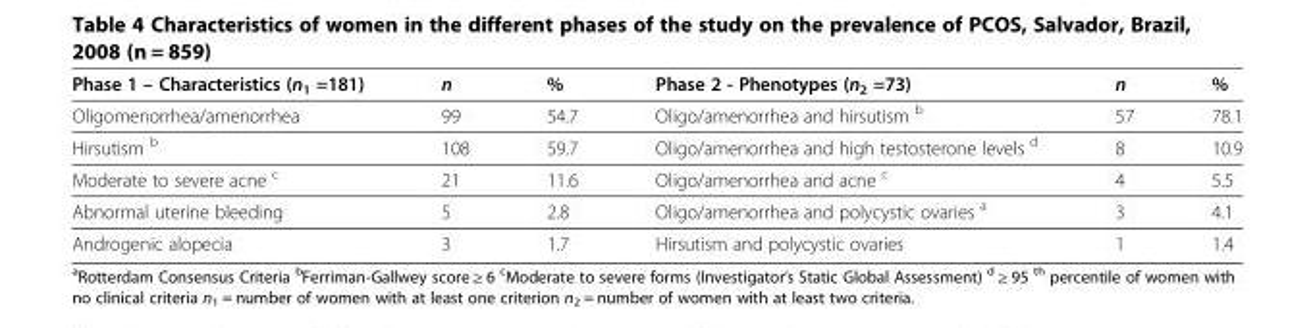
<table><thead><tr><td>Phase 1 – Characteristics (n<sub>1</sub> =181)</td><td>n</td><td>%</td><td>Phase 2 - Phenotypes (n<sub>2</sub> =73)</td><td>n</td><td>%</td></tr></thead><tbody><tr><td>Oligomenorrhea/amenorrhea</td><td>99</td><td>54.7</td><td>Oligo/amenorrhea and hirsutism <sup>b</sup></td><td>57</td><td>78.1</td></tr><tr><td>Hirsutism <sup>b</sup></td><td>108</td><td>59.7</td><td>Oligo/amenorrhea and high testosterone levels <sup>d</sup></td><td>8</td><td>10.9</td></tr><tr><td>Moderate to severe acne <sup>c</sup></td><td>21</td><td>11.6</td><td>Oligo/amenorrhea and acne <sup>c</sup></td><td>4</td><td>5.5</td></tr><tr><td>Abnormal uterine bleeding</td><td>5</td><td>2.8</td><td>Oligo/amenorrhea and polycystic ovaries <sup>a</sup></td><td>3</td><td>4.1</td></tr><tr><td>Androgenic alopecia</td><td>3</td><td>1.7</td><td>Hirsutism and polycystic ovaries</td><td>1</td><td>1.4</td></tr></tbody></table>